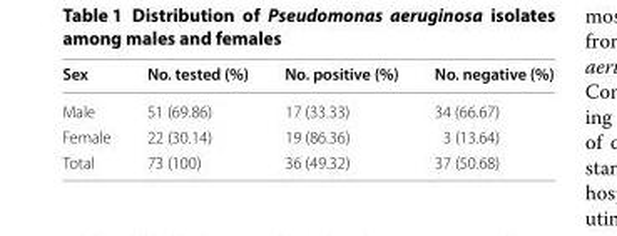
<table><thead><tr><td>Sex</td><td>No. tested (%)</td><td>No. positive (%)</td><td>No. negative (%)</td></tr></thead><tbody><tr><td>Male</td><td>51 (69.86)</td><td>17 (33.33)</td><td>34 (66.67)</td></tr><tr><td>Female</td><td>22 (30.14)</td><td>19 (86.36)</td><td>3 (13.64)</td></tr><tr><td>Total</td><td>73 (100)</td><td>36 (49.32)</td><td>37 (50.68)</td></tr></tbody></table>